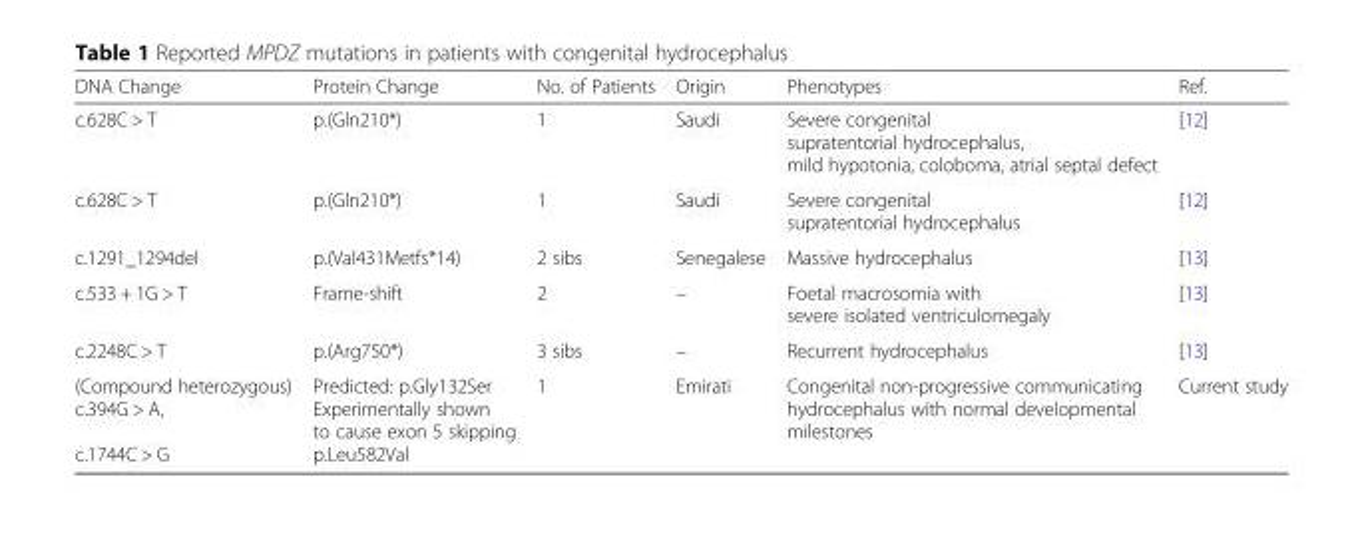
<table><thead><tr><td>DNA Change</td><td>Protein Change</td><td>No. of Patients</td><td>Origin</td><td>Phenotypes</td><td>Ref.</td></tr></thead><tbody><tr><td>c.628C &gt; T</td><td>p.(Gln210*)</td><td>1</td><td>Saudi</td><td>Severe congenital supratentorial hydrocephalus, mild hypotonia, coloboma, atrial septal defect</td><td>[12]</td></tr><tr><td>c.628C &gt; T</td><td>p.(Gln210*)</td><td>1</td><td>Saudi</td><td>Severe congenital supratentorial hydrocephalus</td><td>[12]</td></tr><tr><td>c.1291_1294del</td><td>p.(Val431Metfs*14)</td><td>2 sibs</td><td>Senegalese</td><td>Massive hydrocephalus</td><td>[13]</td></tr><tr><td>c.533 + 1G &gt; T</td><td>Frame-shift</td><td>2</td><td>–</td><td>Foetal macrosomia with severe isolated ventriculomegaly</td><td>[13]</td></tr><tr><td>c.2248C &gt; T</td><td>p.(Arg750*)</td><td>3 sibs</td><td>–</td><td>Recurrent hydrocephalus</td><td>[13]</td></tr><tr><td>(Compound heterozygous) c.394G &gt; A, c.1744C &gt; G</td><td>Predicted: p.Gly132Ser Experimentally shown to cause exon 5 skipping p.Leu582Val</td><td>1</td><td>Emirati</td><td>Congenital non-progressive communicating hydrocephalus with normal developmental milestones</td><td>Current study</td></tr></tbody></table>